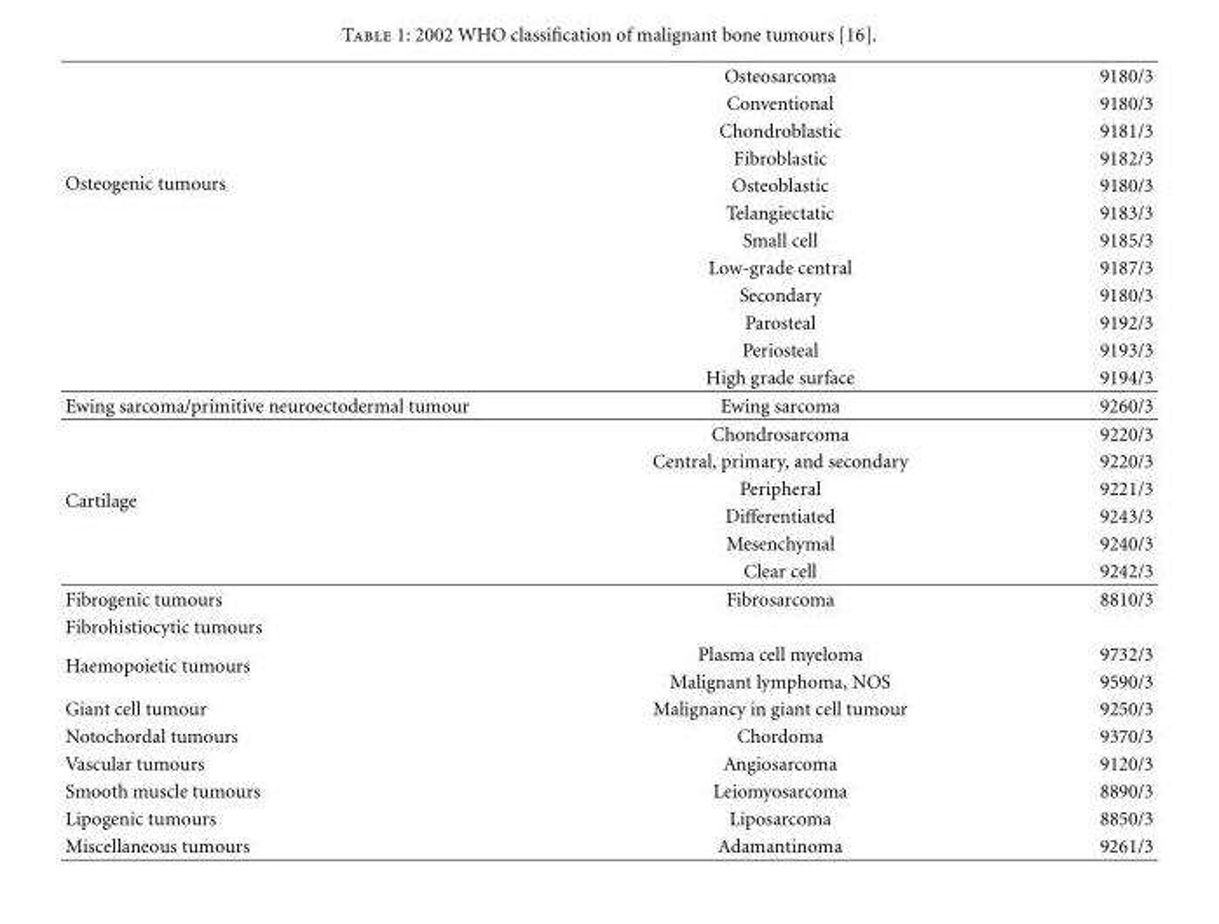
<table><tbody><tr><td rowspan="12">Osteogenic tumours</td><td>Osteosarcoma</td><td>9180/3</td></tr><tr><td>Conventional</td><td>9180/3</td></tr><tr><td>Chondroblastic</td><td>9181/3</td></tr><tr><td>Fibroblastic</td><td>9182/3</td></tr><tr><td>Osteoblastic</td><td>9180/3</td></tr><tr><td>Telangiectatic</td><td>9183/3</td></tr><tr><td>Small cell</td><td>9185/3</td></tr><tr><td>Low-grade central</td><td>9187/3</td></tr><tr><td>Secondary</td><td>9180/3</td></tr><tr><td>Parosteal</td><td>9192/3</td></tr><tr><td>Periosteal</td><td>9193/3</td></tr><tr><td>High grade surface</td><td>9194/3</td></tr><tr><td>Ewing sarcoma/primitive neuroectodermal tumour</td><td>Ewing sarcoma</td><td>9260/3</td></tr><tr><td rowspan="6">Cartilage</td><td>Chondrosarcoma</td><td>9220/3</td></tr><tr><td>Central, primary, and secondary</td><td>9220/3</td></tr><tr><td>Peripheral</td><td>9221/3</td></tr><tr><td>Differentiated</td><td>9243/3</td></tr><tr><td>Mesenchymal</td><td>9240/3</td></tr><tr><td>Clear cell</td><td>9242/3</td></tr><tr><td>Fibrogenic tumours</td><td>Fibrosarcoma</td><td>8810/3</td></tr><tr><td colspan="3">Fibrohistiocytic tumours</td></tr><tr><td rowspan="2">Haemopoietic tumours</td><td>Plasma cell myeloma</td><td>9732/3</td></tr><tr><td>Malignant lymphoma, NOS</td><td>9590/3</td></tr><tr><td>Giant cell tumour</td><td>Malignancy in giant cell tumour</td><td>9250/3</td></tr><tr><td>Notochordal tumours</td><td>Chordoma</td><td>9370/3</td></tr><tr><td>Vascular tumours</td><td>Angiosarcoma</td><td>9120/3</td></tr><tr><td>Smooth muscle tumours</td><td>Leiomyosarcoma</td><td>8890/3</td></tr><tr><td>Lipogenic tumours</td><td>Liposarcoma</td><td>8850/3</td></tr><tr><td>Miscellaneous tumours</td><td>Adamantinoma</td><td>9261/3</td></tr></tbody></table>